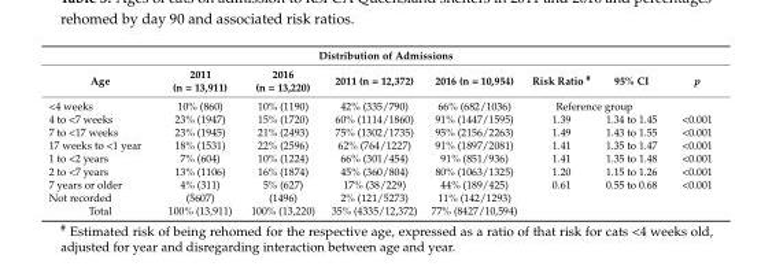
<table><thead><tr><td colspan="8">Distribution of Admissions</td></tr><tr><td>Age</td><td>2011 (n = 13,911)</td><td>2016 (n = 13,220)</td><td>2011 (n = 12,372)</td><td>2016 (n = 10,954)</td><td>Risk Ratio <sup>#</sup></td><td>95% CI</td><td>p</td></tr></thead><tbody><tr><td>&lt;4 weeks</td><td>10% (860)</td><td>10% (1190)</td><td>42% (335/790)</td><td>66% (682/1036)</td><td colspan="2">Reference group</td><td></td></tr><tr><td>4 to &lt;7 weeks</td><td>23% (1947)</td><td>15% (1720)</td><td>60% (1114/1860)</td><td>91% (1447/1595)</td><td>1.39</td><td>1.34 to 1.45</td><td>&lt;0.001</td></tr><tr><td>7 to &lt;17 weeks</td><td>23% (1945)</td><td>21% (2493)</td><td>75% (1302/1735)</td><td>95% (2156/2263)</td><td>1.49</td><td>1.43 to 1.55</td><td>&lt;0.001</td></tr><tr><td>17 weeks to &lt;1 year</td><td>18% (1531)</td><td>22% (2596)</td><td>62% (764/1227)</td><td>91% (1897/2081)</td><td>1.41</td><td>1.35 to 1.47</td><td>&lt;0.001</td></tr><tr><td>1 to &lt;2 years</td><td>7% (604)</td><td>10% (1224)</td><td>66% (301/454)</td><td>91% (851/936)</td><td>1.41</td><td>1.35 to 1.48</td><td>&lt;0.001</td></tr><tr><td>2 to &lt;7 years</td><td>13% (1106)</td><td>16% (1874)</td><td>45% (360/804)</td><td>80% (1063/1325)</td><td>1.20</td><td>1.15 to 1.26</td><td>&lt;0.001</td></tr><tr><td>7 years or older</td><td>4% (311)</td><td>5% (627)</td><td>17% (38/229)</td><td>44% (189/425)</td><td>0.61</td><td>0.55 to 0.68</td><td>&lt;0.001</td></tr><tr><td>Not recorded</td><td>(5607)</td><td>(1496)</td><td>2% (121/5273)</td><td>11% (142/1293)</td><td></td><td></td><td></td></tr><tr><td>Total</td><td>100% (13,911)</td><td>100% (13,220)</td><td>35% (4335/12,372)</td><td>77% (8427/10,594)</td><td></td><td></td><td></td></tr></tbody></table>